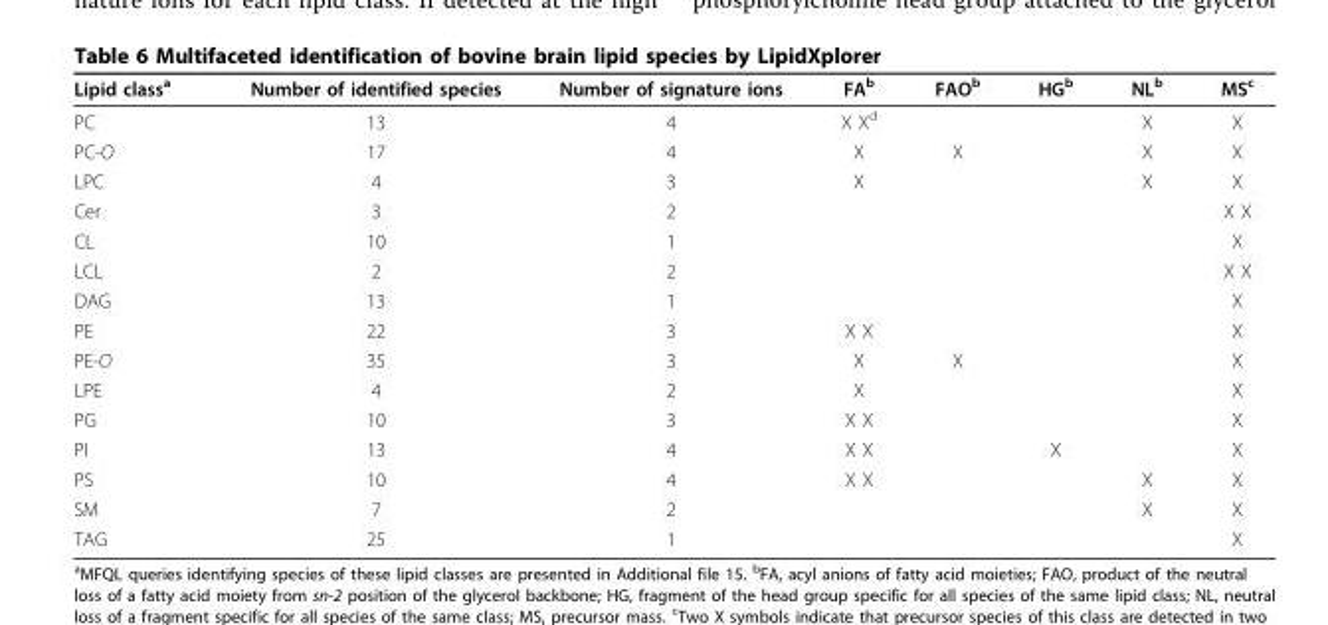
<table><thead><tr><td>Lipid class<sup>a</sup></td><td>Number of identified species</td><td>Number of signature ions</td><td>FA<sup>b</sup></td><td>FAO<sup>b</sup></td><td>HG<sup>b</sup></td><td>NL<sup>b</sup></td><td>MS<sup>c</sup></td></tr></thead><tbody><tr><td>PC</td><td>13</td><td>4</td><td>X X<sup>d</sup></td><td></td><td></td><td>X</td><td>X</td></tr><tr><td>PC-O</td><td>17</td><td>4</td><td>X</td><td>X</td><td></td><td>X</td><td>X</td></tr><tr><td>LPC</td><td>4</td><td>3</td><td>X</td><td></td><td></td><td>X</td><td>X</td></tr><tr><td>Cer</td><td>3</td><td>2</td><td></td><td></td><td></td><td></td><td>X X</td></tr><tr><td>CL</td><td>10</td><td>1</td><td></td><td></td><td></td><td></td><td>X</td></tr><tr><td>LCL</td><td>2</td><td>2</td><td></td><td></td><td></td><td></td><td>X X</td></tr><tr><td>DAG</td><td>13</td><td>1</td><td></td><td></td><td></td><td></td><td>X</td></tr><tr><td>PE</td><td>22</td><td>3</td><td>X X</td><td></td><td></td><td></td><td>X</td></tr><tr><td>PE-O</td><td>35</td><td>3</td><td>X</td><td>X</td><td></td><td></td><td>X</td></tr><tr><td>LPE</td><td>4</td><td>2</td><td>X</td><td></td><td></td><td></td><td>X</td></tr><tr><td>PG</td><td>10</td><td>3</td><td>X X</td><td></td><td></td><td></td><td>X</td></tr><tr><td>PI</td><td>13</td><td>4</td><td>X X</td><td></td><td>X</td><td></td><td>X</td></tr><tr><td>PS</td><td>10</td><td>4</td><td>X X</td><td></td><td></td><td>X</td><td>X</td></tr><tr><td>SM</td><td>7</td><td>2</td><td></td><td></td><td></td><td>X</td><td>X</td></tr><tr><td>TAG</td><td>25</td><td>1</td><td></td><td></td><td></td><td></td><td>X</td></tr></tbody></table>